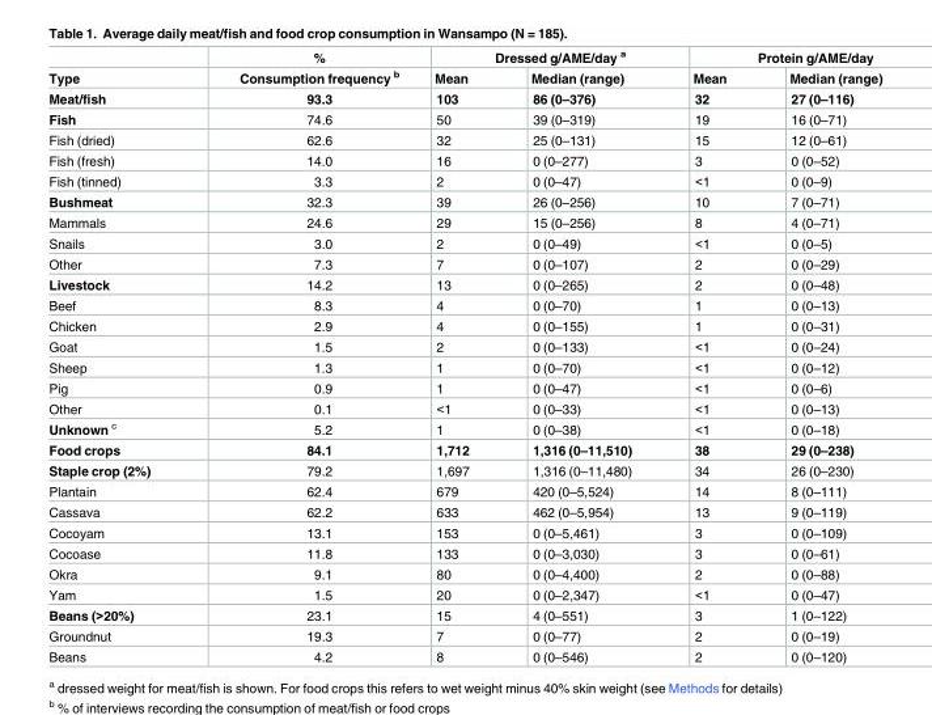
<table><thead><tr><td rowspan="2">Type</td><td rowspan="2">% Consumption frequency <sup>b</sup></td><td colspan="2">Dressed g/AME/day <sup>a</sup></td><td colspan="2">Protein g/AME/day</td></tr><tr><td>Mean</td><td>Median (range)</td><td>Mean</td><td>Median (range)</td></tr></thead><tbody><tr><td>Meat/fish</td><td>93.3</td><td>103</td><td>86 (0–376)</td><td>32</td><td>27 (0–116)</td></tr><tr><td>Fish</td><td>74.6</td><td>50</td><td>39 (0–319)</td><td>19</td><td>16 (0–71)</td></tr><tr><td>Fish (dried)</td><td>62.6</td><td>32</td><td>25 (0–131)</td><td>15</td><td>12 (0–61)</td></tr><tr><td>Fish (fresh)</td><td>14.0</td><td>16</td><td>0 (0–277)</td><td>3</td><td>0 (0–52)</td></tr><tr><td>Fish (tinned)</td><td>3.3</td><td>2</td><td>0 (0–47)</td><td>&lt;1</td><td>0 (0–9)</td></tr><tr><td>Bushmeat</td><td>32.3</td><td>39</td><td>26 (0–256)</td><td>10</td><td>7 (0–71)</td></tr><tr><td>Mammals</td><td>24.6</td><td>29</td><td>15 (0–256)</td><td>8</td><td>4 (0–71)</td></tr><tr><td>Snails</td><td>3.0</td><td>2</td><td>0 (0–49)</td><td>&lt;1</td><td>0 (0–5)</td></tr><tr><td>Other</td><td>7.3</td><td>7</td><td>0 (0–107)</td><td>2</td><td>0 (0–29)</td></tr><tr><td>Livestock</td><td>14.2</td><td>13</td><td>0 (0–265)</td><td>2</td><td>0 (0–48)</td></tr><tr><td>Beef</td><td>8.3</td><td>4</td><td>0 (0–70)</td><td>1</td><td>0 (0–13)</td></tr><tr><td>Chicken</td><td>2.9</td><td>4</td><td>0 (0–155)</td><td>1</td><td>0 (0–31)</td></tr><tr><td>Goat</td><td>1.5</td><td>2</td><td>0 (0–133)</td><td>&lt;1</td><td>0 (0–24)</td></tr><tr><td>Sheep</td><td>1.3</td><td>1</td><td>0 (0–70)</td><td>&lt;1</td><td>0 (0–12)</td></tr><tr><td>Pig</td><td>0.9</td><td>1</td><td>0 (0–47)</td><td>&lt;1</td><td>0 (0–6)</td></tr><tr><td>Other</td><td>0.1</td><td>&lt;1</td><td>0 (0–33)</td><td>&lt;1</td><td>0 (0–13)</td></tr><tr><td>Unknown <sup>c</sup></td><td>5.2</td><td>1</td><td>0 (0–38)</td><td>&lt;1</td><td>0 (0–18)</td></tr><tr><td>Food crops</td><td>84.1</td><td>1,712</td><td>1,316 (0–11,510)</td><td>38</td><td>29 (0–238)</td></tr><tr><td>Staple crop (2%)</td><td>79.2</td><td>1,697</td><td>1,316 (0–11,480)</td><td>34</td><td>26 (0–230)</td></tr><tr><td>Plantain</td><td>62.4</td><td>679</td><td>420 (0–5,524)</td><td>14</td><td>8 (0–111)</td></tr><tr><td>Cassava</td><td>62.2</td><td>633</td><td>462 (0–5,954)</td><td>13</td><td>9 (0–119)</td></tr><tr><td>Cocoyam</td><td>13.1</td><td>153</td><td>0 (0–5,461)</td><td>3</td><td>0 (0–109)</td></tr><tr><td>Cocoase</td><td>11.8</td><td>133</td><td>0 (0–3,030)</td><td>3</td><td>0 (0–61)</td></tr><tr><td>Okra</td><td>9.1</td><td>80</td><td>0 (0–4,400)</td><td>2</td><td>0 (0–88)</td></tr><tr><td>Yam</td><td>1.5</td><td>20</td><td>0 (0–2,347)</td><td>&lt;1</td><td>0 (0–47)</td></tr><tr><td>Beans (&gt;20%)</td><td>23.1</td><td>15</td><td>4 (0–551)</td><td>3</td><td>1 (0–122)</td></tr><tr><td>Groundnut</td><td>19.3</td><td>7</td><td>0 (0–77)</td><td>2</td><td>0 (0–19)</td></tr><tr><td>Beans</td><td>4.2</td><td>8</td><td>0 (0–546)</td><td>2</td><td>0 (0–120)</td></tr></tbody></table>